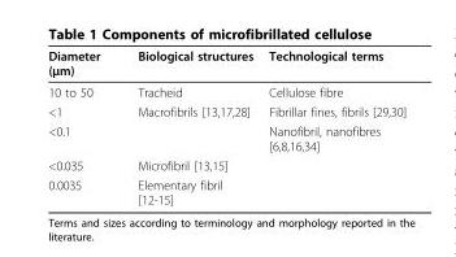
<table><thead><tr><td>Diameter (μm)</td><td>Biological structures</td><td>Technological terms</td></tr></thead><tbody><tr><td>10 to 50</td><td>Tracheid</td><td>Cellulose fibre</td></tr><tr><td>&lt;1</td><td>Macrofibrils [13,17,28]</td><td>Fibrillar fines, fibrils [29,30]</td></tr><tr><td>&lt;0.1</td><td></td><td>Nanofibril, nanofibres [6,8,16,34]</td></tr><tr><td>&lt;0.035</td><td>Microfibril [13,15]</td><td></td></tr><tr><td>0.0035</td><td>Elementary fibril [12-15]</td><td></td></tr></tbody></table>